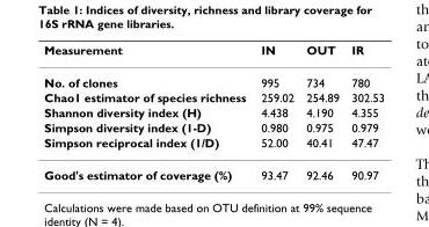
<table><thead><tr><td>Measurement</td><td>IN</td><td>OUT</td><td>IR</td></tr></thead><tbody><tr><td>No. of clones</td><td>995</td><td>734</td><td>780</td></tr><tr><td>Chao1 estimator of species richness</td><td>259.02</td><td>254.89</td><td>302.53</td></tr><tr><td>Shannon diversity index (H)</td><td>4.438</td><td>4.190</td><td>4.355</td></tr><tr><td>Simpson diversity index (1-D)</td><td>0.980</td><td>0.975</td><td>0.979</td></tr><tr><td>Simpson reciprocal index (1/D)</td><td>52.00</td><td>40.41</td><td>47.47</td></tr><tr><td>Good&#x27;s estimator of coverage (%)</td><td>93.47</td><td>92.46</td><td>90.97</td></tr></tbody></table>